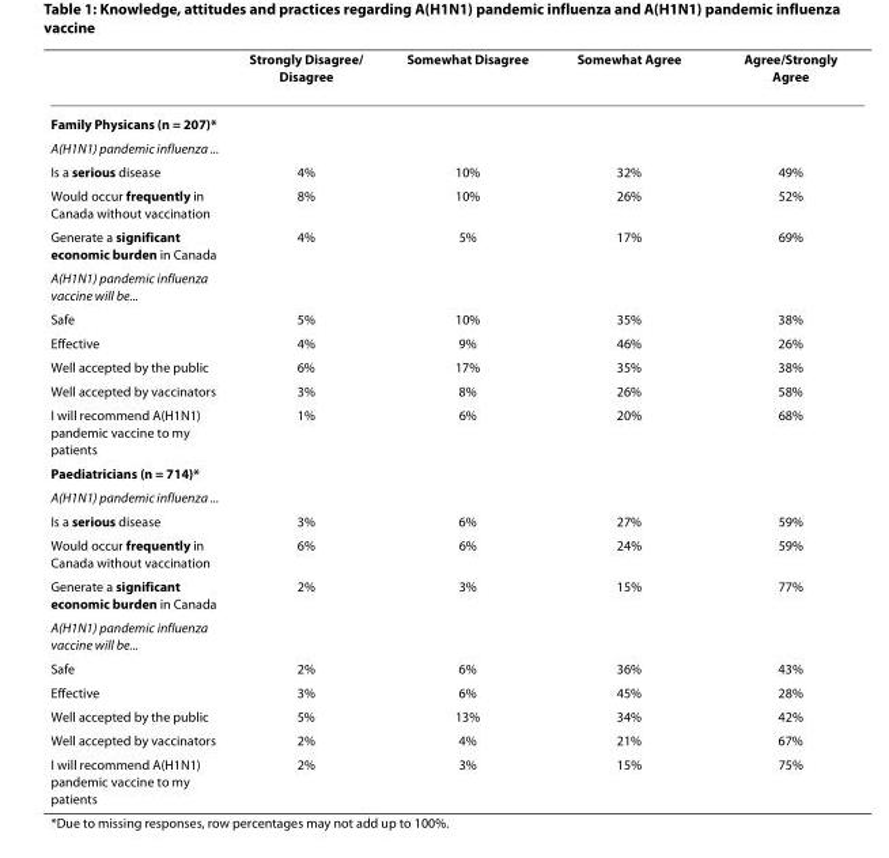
<table><thead><tr><td></td><td>Strongly Disagree/ Disagree</td><td>Somewhat Disagree</td><td>Somewhat Agree</td><td>Agree/Strongly Agree</td></tr></thead><tbody><tr><td colspan="5">Family Physicans (n = 207)*</td></tr><tr><td colspan="5">A(H1N1) pandemic influenza ...</td></tr><tr><td>Is a serious disease</td><td>4%</td><td>10%</td><td>32%</td><td>49%</td></tr><tr><td>Would occur frequently in Canada without vaccination</td><td>8%</td><td>10%</td><td>26%</td><td>52%</td></tr><tr><td>Generate a significant economic burden in Canada</td><td>4%</td><td>5%</td><td>17%</td><td>69%</td></tr><tr><td colspan="5">A(H1N1) pandemic influenza vaccine will be...</td></tr><tr><td>Safe</td><td>5%</td><td>10%</td><td>35%</td><td>38%</td></tr><tr><td>Effective</td><td>4%</td><td>9%</td><td>46%</td><td>26%</td></tr><tr><td>Well accepted by the public</td><td>6%</td><td>17%</td><td>35%</td><td>38%</td></tr><tr><td>Well accepted by vaccinators</td><td>3%</td><td>8%</td><td>26%</td><td>58%</td></tr><tr><td>I will recommend A(H1N1) pandemic vaccine to my patients</td><td>1%</td><td>6%</td><td>20%</td><td>68%</td></tr><tr><td colspan="5">Paediatricians (n = 714)*</td></tr><tr><td colspan="5">A(H1N1) pandemic influenza ...</td></tr><tr><td>Is a serious disease</td><td>3%</td><td>6%</td><td>27%</td><td>59%</td></tr><tr><td>Would occur frequently in Canada without vaccination</td><td>6%</td><td>6%</td><td>24%</td><td>59%</td></tr><tr><td>Generate a significant economic burden in Canada</td><td>2%</td><td>3%</td><td>15%</td><td>77%</td></tr><tr><td colspan="5">A(H1N1) pandemic influenza vaccine will be...</td></tr><tr><td>Safe</td><td>2%</td><td>6%</td><td>36%</td><td>43%</td></tr><tr><td>Effective</td><td>3%</td><td>6%</td><td>45%</td><td>28%</td></tr><tr><td>Well accepted by the public</td><td>5%</td><td>13%</td><td>34%</td><td>42%</td></tr><tr><td>Well accepted by vaccinators</td><td>2%</td><td>4%</td><td>21%</td><td>67%</td></tr><tr><td>I will recommend A(H1N1) pandemic vaccine to my patients</td><td>2%</td><td>3%</td><td>15%</td><td>75%</td></tr></tbody></table>